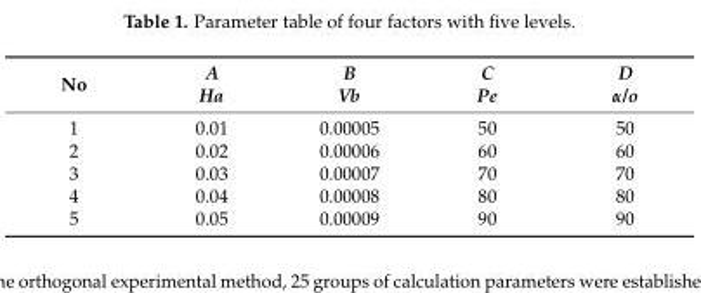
<table><thead><tr><td>No</td><td>A Ha</td><td>B Vb</td><td>C Pe</td><td>D α/o</td></tr></thead><tbody><tr><td>1</td><td>0.01</td><td>0.00005</td><td>50</td><td>50</td></tr><tr><td>2</td><td>0.02</td><td>0.00006</td><td>60</td><td>60</td></tr><tr><td>3</td><td>0.03</td><td>0.00007</td><td>70</td><td>70</td></tr><tr><td>4</td><td>0.04</td><td>0.00008</td><td>80</td><td>80</td></tr><tr><td>5</td><td>0.05</td><td>0.00009</td><td>90</td><td>90</td></tr></tbody></table>